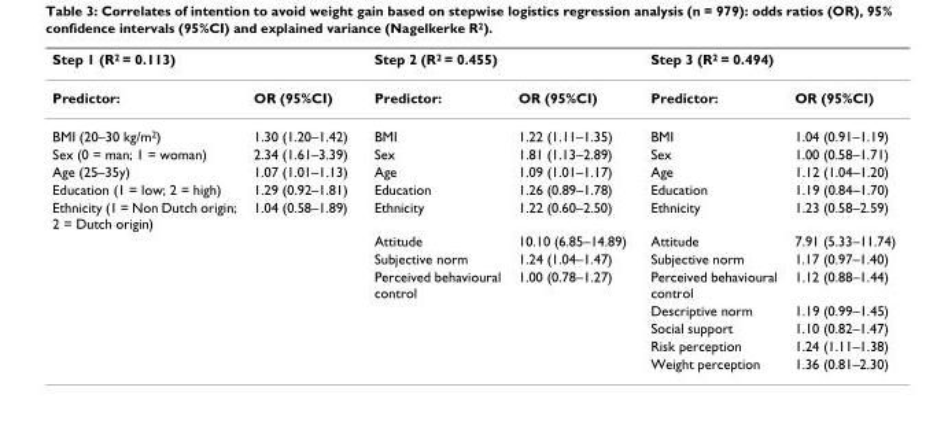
<table><thead><tr><td colspan="2">Step 1 (R<sup>2</sup> = 0.113)</td><td colspan="2">Step 2 (R<sup>2</sup> = 0.455)</td><td colspan="2">Step 3 (R<sup>2</sup> = 0.494)</td></tr><tr><td>Predictor:</td><td>OR (95%CI)</td><td>Predictor:</td><td>OR (95%CI)</td><td>Predictor:</td><td>OR (95%CI)</td></tr></thead><tbody><tr><td>BMI (20–30 kg/m<sup>2</sup>)</td><td>1.30 (1.20–1.42)</td><td>BMI</td><td>1.22 (1.11–1.35)</td><td>BMI</td><td>1.04 (0.91–1.19)</td></tr><tr><td>Sex (0 = man; 1 = woman)</td><td>2.34 (1.61–3.39)</td><td>Sex</td><td>1.81 (1.13–2.89)</td><td>Sex</td><td>1.00 (0.58–1.71)</td></tr><tr><td>Age (25–35y)</td><td>1.07 (1.01–1.13)</td><td>Age</td><td>1.09 (1.01–1.17)</td><td>Age</td><td>1.12 (1.04–1.20)</td></tr><tr><td>Education (1 = low; 2 = high)</td><td>1.29 (0.92–1.81)</td><td>Education</td><td>1.26 (0.89–1.78)</td><td>Education</td><td>1.19 (0.84–1.70)</td></tr><tr><td rowspan="8">Ethnicity (1 = Non Dutch origin; 2 = Dutch origin)</td><td>1.04 (0.58–1.89)</td><td>Ethnicity</td><td>1.22 (0.60–2.50)</td><td>Ethnicity</td><td>1.23 (0.58–2.59)</td></tr><tr><td></td><td>Attitude</td><td>10.10 (6.85–14.89)</td><td>Attitude</td><td>7.91 (5.33–11.74)</td></tr><tr><td></td><td>Subjective norm</td><td>1.24 (1.04–1.47)</td><td>Subjective norm</td><td>1.17 (0.97–1.40)</td></tr><tr><td></td><td>Perceived behavioural control</td><td>1.00 (0.78–1.27)</td><td>Perceived behavioural control</td><td>1.12 (0.88–1.44)</td></tr><tr><td></td><td></td><td></td><td>Descriptive norm</td><td>1.19 (0.99–1.45)</td></tr><tr><td></td><td></td><td></td><td>Social support</td><td>1.10 (0.82–1.47)</td></tr><tr><td></td><td></td><td></td><td>Risk perception</td><td>1.24 (1.11–1.38)</td></tr><tr><td></td><td></td><td></td><td>Weight perception</td><td>1.36 (0.81–2.30)</td></tr></tbody></table>